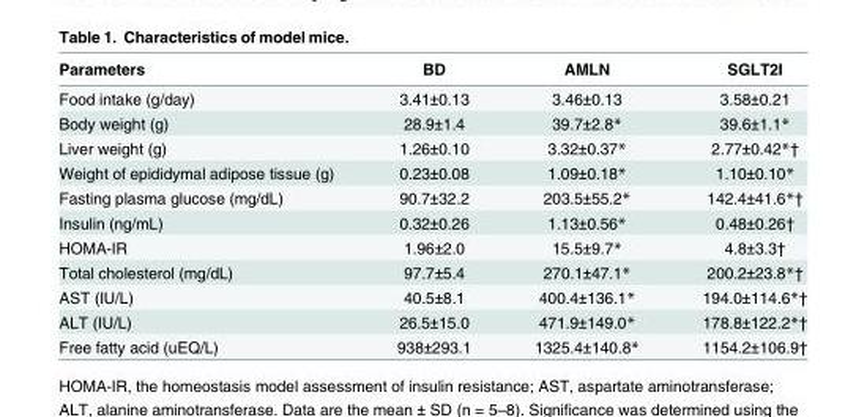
<table><thead><tr><td>Parameters</td><td>BD</td><td>AMLN</td><td>SGLT2I</td></tr></thead><tbody><tr><td>Food intake (g/day)</td><td>3.41±0.13</td><td>3.46±0.13</td><td>3.58±0.21</td></tr><tr><td>Body weight (g)</td><td>28.9±1.4</td><td>39.7±2.8*</td><td>39.6±1.1*</td></tr><tr><td>Liver weight (g)</td><td>1.26±0.10</td><td>3.32±0.37*</td><td>2.77±0.42*†</td></tr><tr><td>Weight of epididymal adipose tissue (g)</td><td>0.23±0.08</td><td>1.09±0.18*</td><td>1.10±0.10*</td></tr><tr><td>Fasting plasma glucose (mg/dL)</td><td>90.7±32.2</td><td>203.5±55.2*</td><td>142.4±41.6*†</td></tr><tr><td>Insulin (ng/mL)</td><td>0.32±0.26</td><td>1.13±0.56*</td><td>0.48±0.26†</td></tr><tr><td>HOMA-IR</td><td>1.96±2.0</td><td>15.5±9.7*</td><td>4.8±3.3†</td></tr><tr><td>Total cholesterol (mg/dL)</td><td>97.7±5.4</td><td>270.1±47.1*</td><td>200.2±23.8*†</td></tr><tr><td>AST (IU/L)</td><td>40.5±8.1</td><td>400.4±136.1*</td><td>194.0±114.6*†</td></tr><tr><td>ALT (IU/L)</td><td>26.5±15.0</td><td>471.9±149.0*</td><td>178.8±122.2*†</td></tr><tr><td>Free fatty acid (uEQ/L)</td><td>938±293.1</td><td>1325.4±140.8*</td><td>1154.2±106.9†</td></tr></tbody></table>